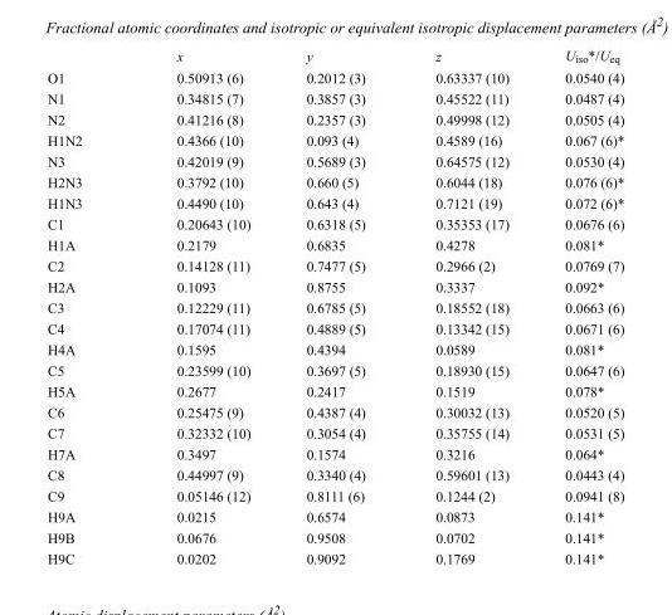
<table><thead><tr><td></td><td>x</td><td>y</td><td>z</td><td>U<sub>iso</sub>*/U<sub>eq</sub></td></tr></thead><tbody><tr><td>O1</td><td>0.50913 (6)</td><td>0.2012 (3)</td><td>0.63337 (10)</td><td>0.0540 (4)</td></tr><tr><td>N1</td><td>0.34815 (7)</td><td>0.3857 (3)</td><td>0.45522 (11)</td><td>0.0487 (4)</td></tr><tr><td>N2</td><td>0.41216 (8)</td><td>0.2357 (3)</td><td>0.49998 (12)</td><td>0.0505 (4)</td></tr><tr><td>H1N2</td><td>0.4366 (10)</td><td>0.093 (4)</td><td>0.4589 (16)</td><td>0.067 (6)*</td></tr><tr><td>N3</td><td>0.42019 (9)</td><td>0.5689 (3)</td><td>0.64575 (12)</td><td>0.0530 (4)</td></tr><tr><td>H2N3</td><td>0.3792 (10)</td><td>0.660 (5)</td><td>0.6044 (18)</td><td>0.076 (6)*</td></tr><tr><td>H1N3</td><td>0.4490 (10)</td><td>0.643 (4)</td><td>0.7121 (19)</td><td>0.072 (6)*</td></tr><tr><td>C1</td><td>0.20643 (10)</td><td>0.6318 (5)</td><td>0.35353 (17)</td><td>0.0676 (6)</td></tr><tr><td>H1A</td><td>0.2179</td><td>0.6835</td><td>0.4278</td><td>0.081*</td></tr><tr><td>C2</td><td>0.14128 (11)</td><td>0.7477 (5)</td><td>0.2966 (2)</td><td>0.0769 (7)</td></tr><tr><td>H2A</td><td>0.1093</td><td>0.8755</td><td>0.3337</td><td>0.092*</td></tr><tr><td>C3</td><td>0.12229 (11)</td><td>0.6785 (5)</td><td>0.18552 (18)</td><td>0.0663 (6)</td></tr><tr><td>C4</td><td>0.17074 (11)</td><td>0.4889 (5)</td><td>0.13342 (15)</td><td>0.0671 (6)</td></tr><tr><td>H4A</td><td>0.1595</td><td>0.4394</td><td>0.0589</td><td>0.081*</td></tr><tr><td>C5</td><td>0.23599 (10)</td><td>0.3697 (5)</td><td>0.18930 (15)</td><td>0.0647 (6)</td></tr><tr><td>H5A</td><td>0.2677</td><td>0.2417</td><td>0.1519</td><td>0.078*</td></tr><tr><td>C6</td><td>0.25475 (9)</td><td>0.4387 (4)</td><td>0.30032 (13)</td><td>0.0520 (5)</td></tr><tr><td>C7</td><td>0.32332 (10)</td><td>0.3054 (4)</td><td>0.35755 (14)</td><td>0.0531 (5)</td></tr><tr><td>H7A</td><td>0.3497</td><td>0.1574</td><td>0.3216</td><td>0.064*</td></tr><tr><td>C8</td><td>0.44997 (9)</td><td>0.3340 (4)</td><td>0.59601 (13)</td><td>0.0443 (4)</td></tr><tr><td>C9</td><td>0.05146 (12)</td><td>0.8111 (6)</td><td>0.1244 (2)</td><td>0.0941 (8)</td></tr><tr><td>H9A</td><td>0.0215</td><td>0.6574</td><td>0.0873</td><td>0.141*</td></tr><tr><td>H9B</td><td>0.0676</td><td>0.9508</td><td>0.0702</td><td>0.141*</td></tr><tr><td>H9C</td><td>0.0202</td><td>0.9092</td><td>0.1769</td><td>0.141*</td></tr></tbody></table>